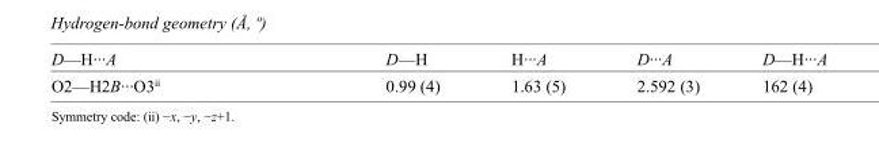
<table><tbody><tr><td>D—H···A</td><td>D—H</td><td>H···A</td><td>D···A</td><td>D—H···A</td></tr><tr><td>O2—H2B···O3<sup>ii</sup></td><td>0.99 (4)</td><td>1.63 (5)</td><td>2.592 (3)</td><td>162 (4)</td></tr></tbody></table>